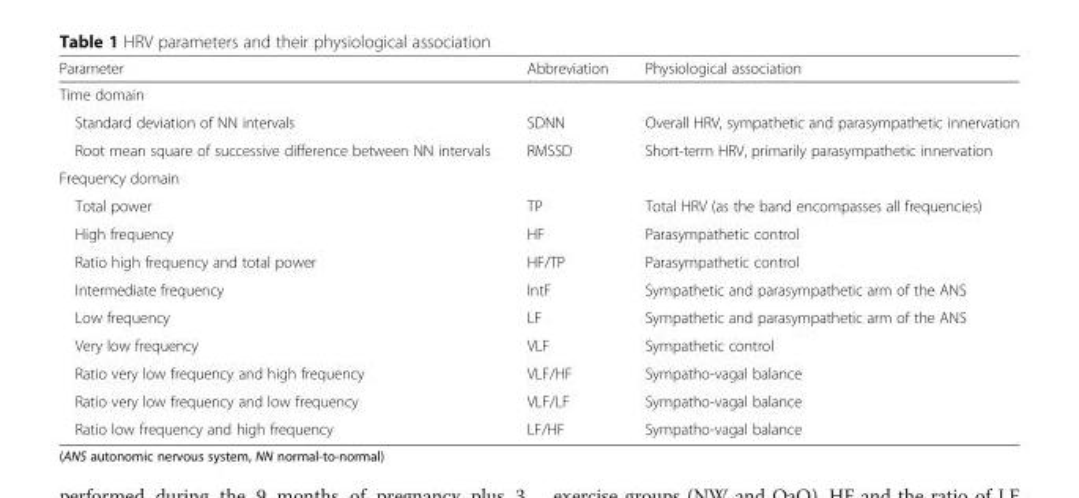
<table><thead><tr><td>Parameter</td><td>Abbreviation</td><td>Physiological association</td></tr></thead><tbody><tr><td colspan="3">Time domain</td></tr><tr><td>Standard deviation of NN intervals</td><td>SDNN</td><td>Overall HRV, sympathetic and parasympathetic innervation</td></tr><tr><td>Root mean square of successive difference between NN intervals</td><td>RMSSD</td><td>Short-term HRV, primarily parasympathetic innervation</td></tr><tr><td colspan="3">Frequency domain</td></tr><tr><td>Total power</td><td>TP</td><td>Total HRV (as the band encompasses all frequencies)</td></tr><tr><td>High frequency</td><td>HF</td><td>Parasympathetic control</td></tr><tr><td>Ratio high frequency and total power</td><td>HF/TP</td><td>Parasympathetic control</td></tr><tr><td>Intermediate frequency</td><td>IntF</td><td>Sympathetic and parasympathetic arm of the ANS</td></tr><tr><td>Low frequency</td><td>LF</td><td>Sympathetic and parasympathetic arm of the ANS</td></tr><tr><td>Very low frequency</td><td>VLF</td><td>Sympathetic control</td></tr><tr><td>Ratio very low frequency and high frequency</td><td>VLF/HF</td><td>Sympatho-vagal balance</td></tr><tr><td>Ratio very low frequency and low frequency</td><td>VLF/LF</td><td>Sympatho-vagal balance</td></tr><tr><td>Ratio low frequency and high frequency</td><td>LF/HF</td><td>Sympatho-vagal balance</td></tr></tbody></table>